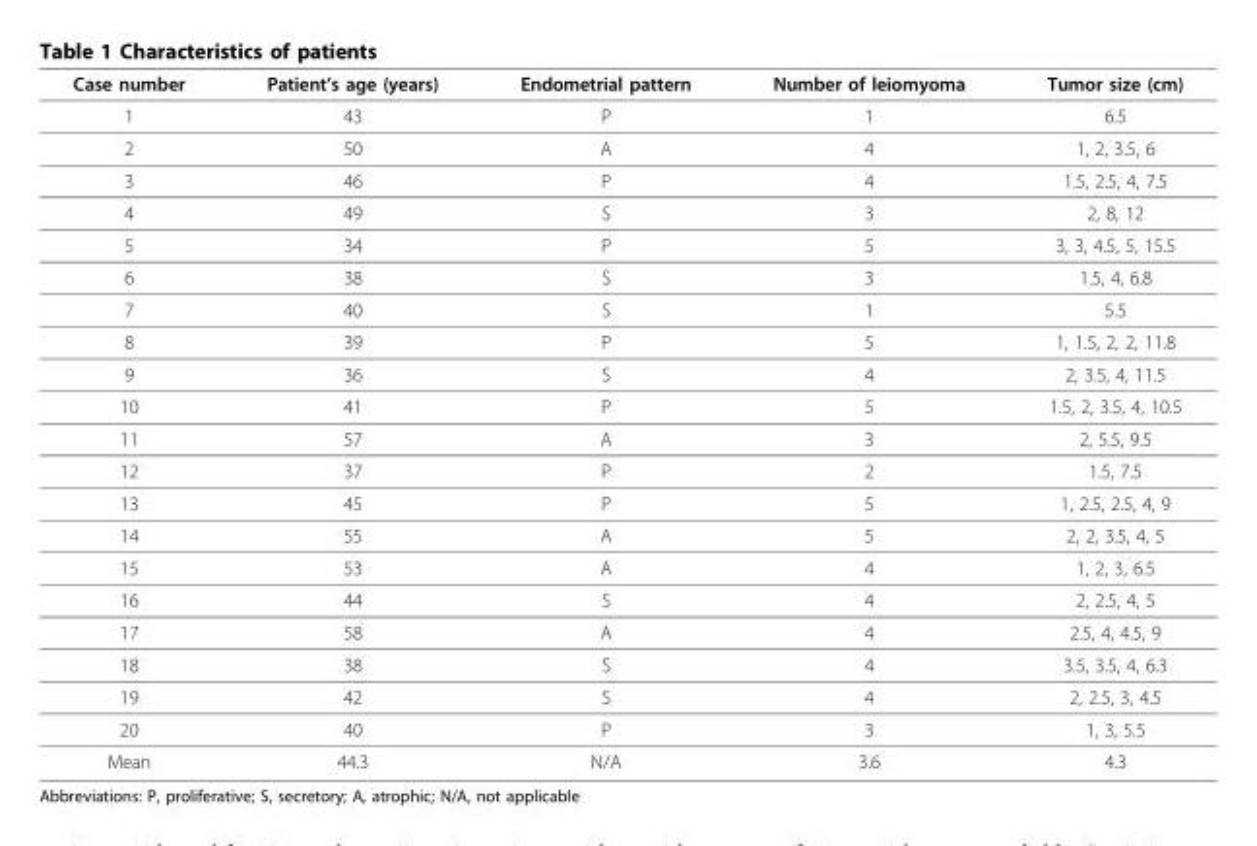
<table><thead><tr><td>Case number</td><td>Patient’s age (years)</td><td>Endometrial pattern</td><td>Number of leiomyoma</td><td>Tumor size (cm)</td></tr></thead><tbody><tr><td>1</td><td>43</td><td>P</td><td>1</td><td>6.5</td></tr><tr><td>2</td><td>50</td><td>A</td><td>4</td><td>1, 2, 3.5, 6</td></tr><tr><td>3</td><td>46</td><td>P</td><td>4</td><td>1.5, 2.5, 4, 7.5</td></tr><tr><td>4</td><td>49</td><td>S</td><td>3</td><td>2, 8, 12</td></tr><tr><td>5</td><td>34</td><td>P</td><td>5</td><td>3, 3, 4.5, 5, 15.5</td></tr><tr><td>6</td><td>38</td><td>S</td><td>3</td><td>1.5, 4, 6.8</td></tr><tr><td>7</td><td>40</td><td>S</td><td>1</td><td>5.5</td></tr><tr><td>8</td><td>39</td><td>P</td><td>5</td><td>1, 1.5, 2, 2, 11.8</td></tr><tr><td>9</td><td>36</td><td>S</td><td>4</td><td>2, 3.5, 4, 11.5</td></tr><tr><td>10</td><td>41</td><td>P</td><td>5</td><td>1.5, 2, 3.5, 4, 10.5</td></tr><tr><td>11</td><td>57</td><td>A</td><td>3</td><td>2, 5.5, 9.5</td></tr><tr><td>12</td><td>37</td><td>P</td><td>2</td><td>1.5, 7.5</td></tr><tr><td>13</td><td>45</td><td>P</td><td>5</td><td>1, 2.5, 2.5, 4, 9</td></tr><tr><td>14</td><td>55</td><td>A</td><td>5</td><td>2, 2, 3.5, 4, 5</td></tr><tr><td>15</td><td>53</td><td>A</td><td>4</td><td>1, 2, 3, 6.5</td></tr><tr><td>16</td><td>44</td><td>S</td><td>4</td><td>2, 2.5, 4, 5</td></tr><tr><td>17</td><td>58</td><td>A</td><td>4</td><td>2.5, 4, 4.5, 9</td></tr><tr><td>18</td><td>38</td><td>S</td><td>4</td><td>3.5, 3.5, 4, 6.3</td></tr><tr><td>19</td><td>42</td><td>S</td><td>4</td><td>2, 2.5, 3, 4.5</td></tr><tr><td>20</td><td>40</td><td>P</td><td>3</td><td>1, 3, 5.5</td></tr><tr><td>Mean</td><td>44.3</td><td>N/A</td><td>3.6</td><td>4.3</td></tr></tbody></table>